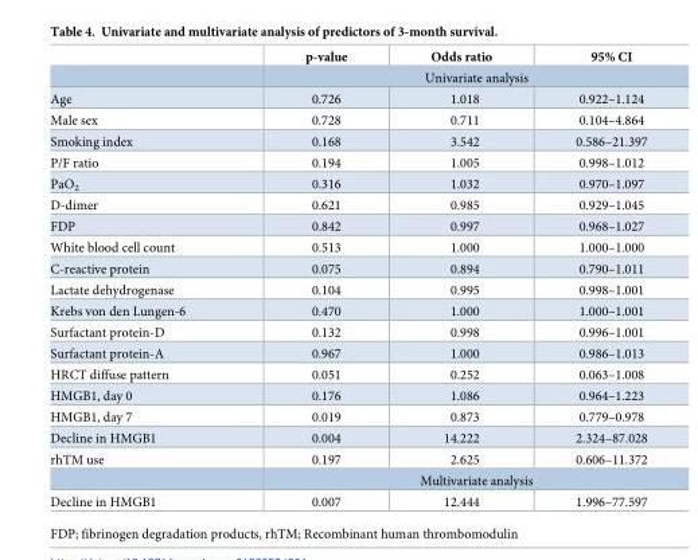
<table><thead><tr><td></td><td>p-value</td><td>Odds ratio</td><td>95% CI</td></tr></thead><tbody><tr><td></td><td colspan="3">Univariate analysis</td></tr><tr><td>Age</td><td>0.726</td><td>1.018</td><td>0.922–1.124</td></tr><tr><td>Male sex</td><td>0.728</td><td>0.711</td><td>0.104–4.864</td></tr><tr><td>Smoking index</td><td>0.168</td><td>3.542</td><td>0.586–21.397</td></tr><tr><td>P/F ratio</td><td>0.194</td><td>1.005</td><td>0.998–1.012</td></tr><tr><td>PaO<sub>2</sub></td><td>0.316</td><td>1.032</td><td>0.970–1.097</td></tr><tr><td>D-dimer</td><td>0.621</td><td>0.985</td><td>0.929–1.045</td></tr><tr><td>FDP</td><td>0.842</td><td>0.997</td><td>0.968–1.027</td></tr><tr><td>White blood cell count</td><td>0.513</td><td>1.000</td><td>1.000–1.000</td></tr><tr><td>C-reactive protein</td><td>0.075</td><td>0.894</td><td>0.790–1.011</td></tr><tr><td>Lactate dehydrogenase</td><td>0.104</td><td>0.995</td><td>0.998–1.001</td></tr><tr><td>Krebs von den Lungen-6</td><td>0.470</td><td>1.000</td><td>1.000–1.001</td></tr><tr><td>Surfactant protein-D</td><td>0.132</td><td>0.998</td><td>0.996–1.001</td></tr><tr><td>Surfactant protein-A</td><td>0.967</td><td>1.000</td><td>0.986–1.013</td></tr><tr><td>HRCT diffuse pattern</td><td>0.051</td><td>0.252</td><td>0.063–1.008</td></tr><tr><td>HMGB1, day 0</td><td>0.176</td><td>1.086</td><td>0.964–1.223</td></tr><tr><td>HMGB1, day 7</td><td>0.019</td><td>0.873</td><td>0.779–0.978</td></tr><tr><td>Decline in HMGB1</td><td>0.004</td><td>14.222</td><td>2.324–87.028</td></tr><tr><td rowspan="2">rhTM use</td><td>0.197</td><td>2.625</td><td>0.606–11.372</td></tr><tr><td colspan="3">Multivariate analysis</td></tr><tr><td>Decline in HMGB1</td><td>0.007</td><td>12.444</td><td>1.996–77.597</td></tr></tbody></table>